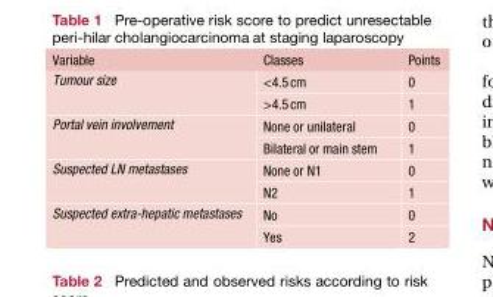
<table><thead><tr><td>Variable</td><td>Classes</td><td>Points</td></tr></thead><tbody><tr><td rowspan="2">Tumour size</td><td>&lt;4.5cm</td><td>0</td></tr><tr><td>&gt;4.5cm</td><td>1</td></tr><tr><td rowspan="2">Portal vein involvement</td><td>None or unilateral</td><td>0</td></tr><tr><td>Bilateral or main stem</td><td>1</td></tr><tr><td rowspan="2">Suspected LN metastases</td><td>None or N1</td><td>0</td></tr><tr><td>N2</td><td>1</td></tr><tr><td rowspan="2">Suspected extra-hepatic metastases</td><td>No</td><td>0</td></tr><tr><td>Yes</td><td>2</td></tr></tbody></table>